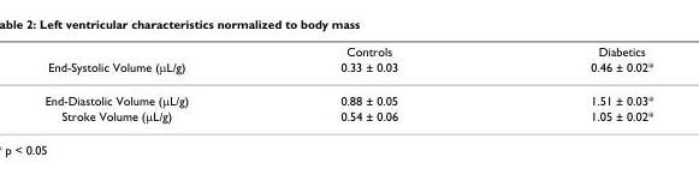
<table><thead><tr><td rowspan="2">End-Systolic Volume (μL/g)</td><td rowspan="2">Controls 0.33 ± 0.03</td><td rowspan="2">Diabetics 0.46 ± 0.02*</td></tr><tr></tr></thead><tbody><tr><td>End-Diastolic Volume (μL/g)</td><td>0.88 ± 0.05</td><td>1.51 ± 0.03*</td></tr><tr><td>Stroke Volume (μL/g)</td><td>0.54 ± 0.06</td><td>1.05 ± 0.02*</td></tr></tbody></table>